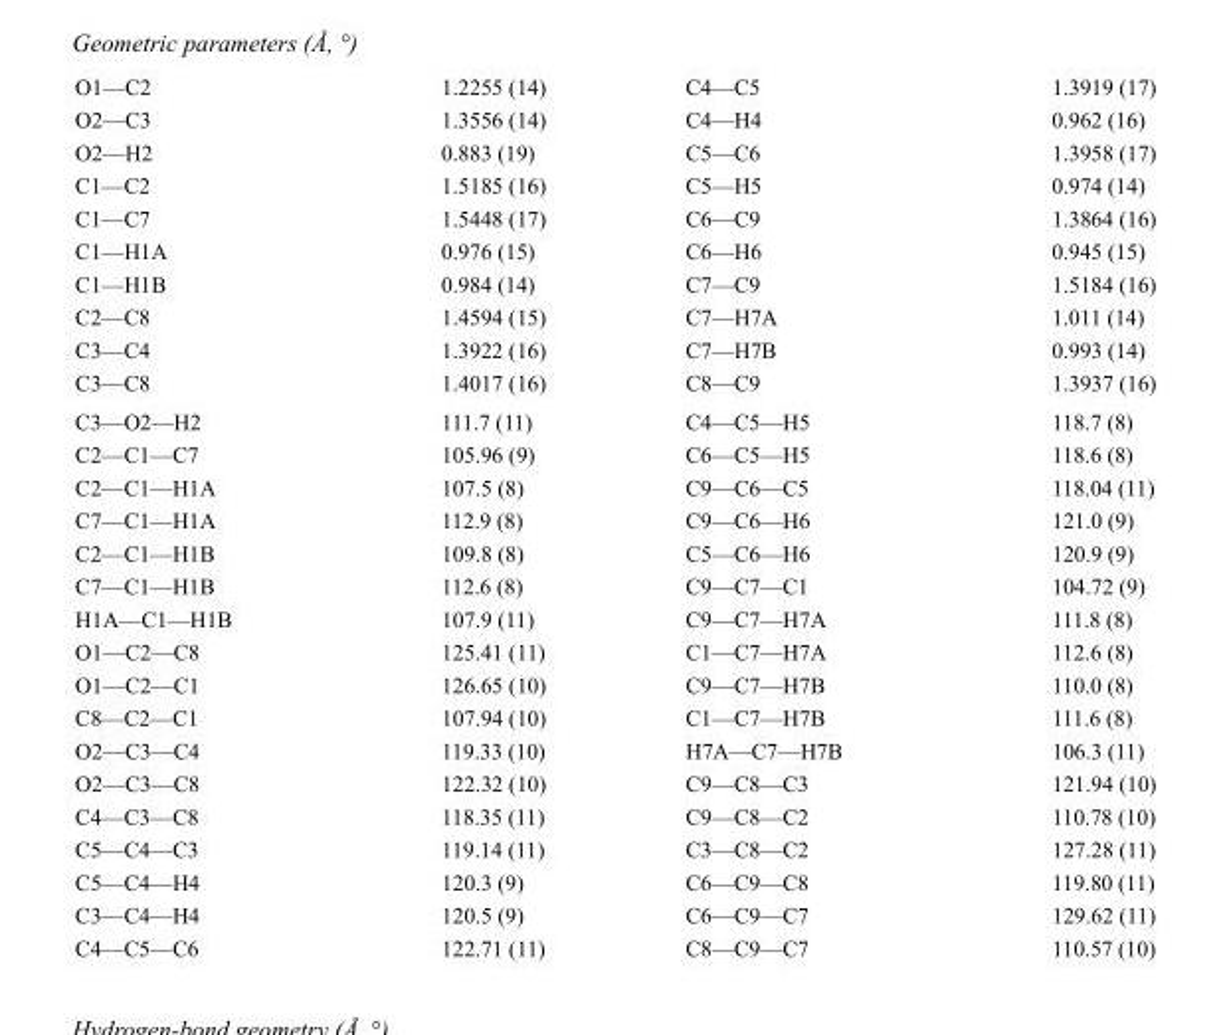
<table><tbody><tr><td>O1—C2</td><td>1.2255 (14)</td><td>C4—C5</td><td>1.3919 (17)</td></tr><tr><td>O2—C3</td><td>1.3556 (14)</td><td>C4—H4</td><td>0.962 (16)</td></tr><tr><td>O2—H2</td><td>0.883 (19)</td><td>C5—C6</td><td>1.3958 (17)</td></tr><tr><td>C1—C2</td><td>1.5185 (16)</td><td>C5—H5</td><td>0.974 (14)</td></tr><tr><td>C1—C7</td><td>1.5448 (17)</td><td>C6—C9</td><td>1.3864 (16)</td></tr><tr><td>C1—H1A</td><td>0.976 (15)</td><td>C6—H6</td><td>0.945 (15)</td></tr><tr><td>C1—H1B</td><td>0.984 (14)</td><td>C7—C9</td><td>1.5184 (16)</td></tr><tr><td>C2—C8</td><td>1.4594 (15)</td><td>C7—H7A</td><td>1.011 (14)</td></tr><tr><td>C3—C4</td><td>1.3922 (16)</td><td>C7—H7B</td><td>0.993 (14)</td></tr><tr><td>C3—C8</td><td>1.4017 (16)</td><td>C8—C9</td><td>1.3937 (16)</td></tr><tr><td>C3—O2—H2</td><td>111.7 (11)</td><td>C4—C5—H5</td><td>118.7 (8)</td></tr><tr><td>C2—C1—C7</td><td>105.96 (9)</td><td>C6—C5—H5</td><td>118.6 (8)</td></tr><tr><td>C2—C1—H1A</td><td>107.5 (8)</td><td>C9—C6—C5</td><td>118.04 (11)</td></tr><tr><td>C7—C1—H1A</td><td>112.9 (8)</td><td>C9—C6—H6</td><td>121.0 (9)</td></tr><tr><td>C2—C1—H1B</td><td>109.8 (8)</td><td>C5—C6—H6</td><td>120.9 (9)</td></tr><tr><td>C7—C1—H1B</td><td>112.6 (8)</td><td>C9—C7—C1</td><td>104.72 (9)</td></tr><tr><td>H1A—C1—H1B</td><td>107.9 (11)</td><td>C9—C7—H7A</td><td>111.8 (8)</td></tr><tr><td>O1—C2—C8</td><td>125.41 (11)</td><td>C1—C7—H7A</td><td>112.6 (8)</td></tr><tr><td>O1—C2—C1</td><td>126.65 (10)</td><td>C9—C7—H7B</td><td>110.0 (8)</td></tr><tr><td>C8—C2—C1</td><td>107.94 (10)</td><td>C1—C7—H7B</td><td>111.6 (8)</td></tr><tr><td>O2—C3—C4</td><td>119.33 (10)</td><td>H7A—C7—H7B</td><td>106.3 (11)</td></tr><tr><td>O2—C3—C8</td><td>122.32 (10)</td><td>C9—C8—C3</td><td>121.94 (10)</td></tr><tr><td>C4—C3—C8</td><td>118.35 (11)</td><td>C9—C8—C2</td><td>110.78 (10)</td></tr><tr><td>C5—C4—C3</td><td>119.14 (11)</td><td>C3—C8—C2</td><td>127.28 (11)</td></tr><tr><td>C5—C4—H4</td><td>120.3 (9)</td><td>C6—C9—C8</td><td>119.80 (11)</td></tr><tr><td>C3—C4—H4</td><td>120.5 (9)</td><td>C6—C9—C7</td><td>129.62 (11)</td></tr><tr><td>C4—C5—C6</td><td>122.71 (11)</td><td>C8—C9—C7</td><td>110.57 (10)</td></tr></tbody></table>